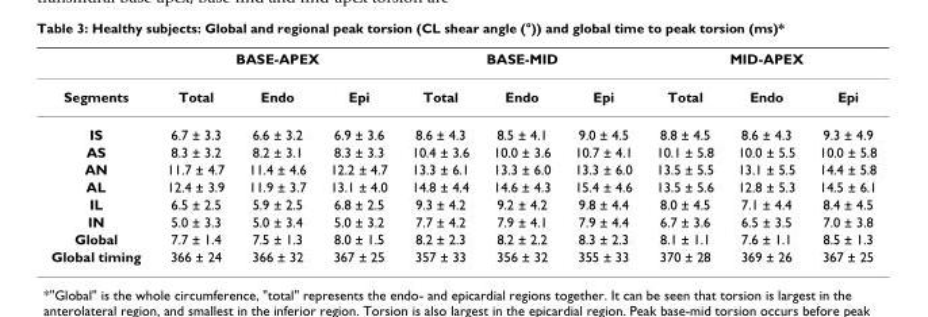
<table><thead><tr><td rowspan="2">Segments</td><td colspan="3">BASE-APEX</td><td colspan="3">BASE-MID</td><td colspan="3">MID-APEX</td></tr><tr><td>Total</td><td>Endo</td><td>Epi</td><td>Total</td><td>Endo</td><td>Epi</td><td>Total</td><td>Endo</td><td>Epi</td></tr></thead><tbody><tr><td>IS</td><td>6.7 ± 3.3</td><td>6.6 ± 3.2</td><td>6.9 ± 3.6</td><td>8.6 ± 4.3</td><td>8.5 ± 4.1</td><td>9.0 ± 4.5</td><td>8.8 ± 4.5</td><td>8.6 ± 4.3</td><td>9.3 ± 4.9</td></tr><tr><td>AS</td><td>8.3 ± 3.2</td><td>8.2 ± 3.1</td><td>8.3 ± 3.3</td><td>10.4 ± 3.6</td><td>10.0 ± 3.6</td><td>10.7 ± 4.1</td><td>10.1 ± 5.8</td><td>10.0 ± 5.5</td><td>10.0 ± 5.8</td></tr><tr><td>AN</td><td>11.7 ± 4.7</td><td>11.4 ± 4.6</td><td>12.2 ± 4.7</td><td>13.3 ± 6.1</td><td>13.3 ± 6.0</td><td>13.3 ± 6.0</td><td>13.5 ± 5.5</td><td>13.1 ± 5.5</td><td>14.4 ± 5.8</td></tr><tr><td>AL</td><td>12.4 ± 3.9</td><td>11.9 ± 3.7</td><td>13.1 ± 4.0</td><td>14.8 ± 4.4</td><td>14.6 ± 4.3</td><td>15.4 ± 4.6</td><td>13.5 ± 5.6</td><td>12.8 ± 5.3</td><td>14.5 ± 6.1</td></tr><tr><td>IL</td><td>6.5 ± 2.5</td><td>5.9 ± 2.5</td><td>6.8 ± 2.5</td><td>9.3 ± 4.2</td><td>9.2 ± 4.2</td><td>9.8 ± 4.4</td><td>8.0 ± 4.5</td><td>7.1 ± 4.4</td><td>8.4 ± 4.5</td></tr><tr><td>IN</td><td>5.0 ± 3.3</td><td>5.0 ± 3.4</td><td>5.0 ± 3.2</td><td>7.7 ± 4.2</td><td>7.9 ± 4.1</td><td>7.9 ± 4.4</td><td>6.7 ± 3.6</td><td>6.5 ± 3.5</td><td>7.0 ± 3.8</td></tr><tr><td>Global</td><td>7.7 ± 1.4</td><td>7.5 ± 1.3</td><td>8.0 ± 1.5</td><td>8.2 ± 2.3</td><td>8.2 ± 2.2</td><td>8.3 ± 2.3</td><td>8.1 ± 1.1</td><td>7.6 ± 1.1</td><td>8.5 ± 1.3</td></tr><tr><td>Global timing</td><td>366 ± 24</td><td>366 ± 32</td><td>367 ± 25</td><td>357 ± 33</td><td>356 ± 32</td><td>355 ± 33</td><td>370 ± 28</td><td>369 ± 26</td><td>367 ± 25</td></tr></tbody></table>